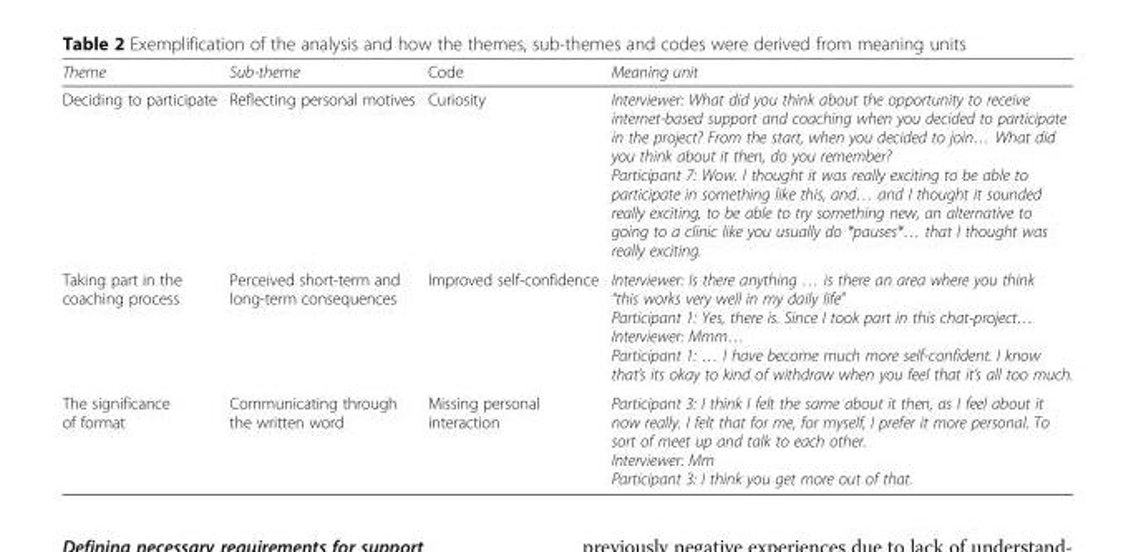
<table><thead><tr><td>Theme</td><td>Sub-theme</td><td>Code</td><td>Meaning unit</td></tr></thead><tbody><tr><td>Deciding to participate</td><td>Reflecting personal motives</td><td>Curiosity</td><td>Interviewer: What did you think about the opportunity to receive internet-based support and coaching when you decided to participate in the project? From the start, when you decided to join… What did you think about it then, do you remember? Participant 7: Wow. I thought it was really exciting to be able to participate in something like this, and… and I thought it sounded really exciting, to be able to try something new, an alternative to going to a clinic like you usually do *pauses*… that I thought was really exciting.</td></tr><tr><td>Taking part in the coaching process</td><td>Perceived short-term and long-term consequences</td><td>Improved self-confidence</td><td>Interviewer: Is there anything … is there an area where you think “this works very well in my daily life” Participant 1: Yes, there is. Since I took part in this chat-project… Interviewer: Mmm… Participant 1: … I have become much more self-confident. I know that’s its okay to kind of withdraw when you feel that it’s all too much.</td></tr><tr><td>The significance of format</td><td>Communicating through the written word</td><td>Missing personal interaction</td><td>Participant 3: I think I felt the same about it then, as I feel about it now really. I felt that for me, for myself, I prefer it more personal. To sort of meet up and talk to each other. Interviewer: Mm Participant 3: I think you get more out of that.</td></tr></tbody></table>